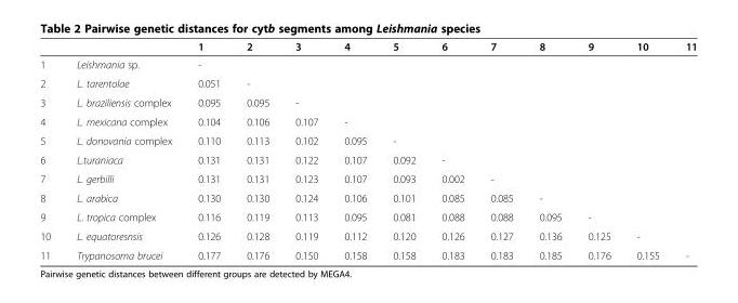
<table><thead><tr><td></td><td></td><td>1</td><td>2</td><td>3</td><td>4</td><td>5</td><td>6</td><td>7</td><td>8</td><td>9</td><td>10</td><td>11</td></tr></thead><tbody><tr><td>1</td><td>Leishmania sp.</td><td>-</td><td></td><td></td><td></td><td></td><td></td><td></td><td></td><td></td><td></td><td></td></tr><tr><td>2</td><td>L. tarentolae</td><td>0.051</td><td>-</td><td></td><td></td><td></td><td></td><td></td><td></td><td></td><td></td><td></td></tr><tr><td>3</td><td>L. braziliensis complex</td><td>0.095</td><td>0.095</td><td>-</td><td></td><td></td><td></td><td></td><td></td><td></td><td></td><td></td></tr><tr><td>4</td><td>L. mexicana complex</td><td>0.104</td><td>0.106</td><td>0.107</td><td>-</td><td></td><td></td><td></td><td></td><td></td><td></td><td></td></tr><tr><td>5</td><td>L. donovania complex</td><td>0.110</td><td>0.113</td><td>0.102</td><td>0.095</td><td>-</td><td></td><td></td><td></td><td></td><td></td><td></td></tr><tr><td>6</td><td>L.turaniaca</td><td>0.131</td><td>0.131</td><td>0.122</td><td>0.107</td><td>0.092</td><td>-</td><td></td><td></td><td></td><td></td><td></td></tr><tr><td>7</td><td>L. gerbilli</td><td>0.131</td><td>0.131</td><td>0.123</td><td>0.107</td><td>0.093</td><td>0.002</td><td>-</td><td></td><td></td><td></td><td></td></tr><tr><td>8</td><td>L. arabica</td><td>0.130</td><td>0.130</td><td>0.124</td><td>0.106</td><td>0.101</td><td>0.085</td><td>0.085</td><td>-</td><td></td><td></td><td></td></tr><tr><td>9</td><td>L. tropica complex</td><td>0.116</td><td>0.119</td><td>0.113</td><td>0.095</td><td>0.081</td><td>0.088</td><td>0.088</td><td>0.095</td><td>-</td><td></td><td></td></tr><tr><td>10</td><td>L. equatoresnsis</td><td>0.126</td><td>0.128</td><td>0.119</td><td>0.112</td><td>0.120</td><td>0.126</td><td>0.127</td><td>0.136</td><td>0.125</td><td>-</td><td></td></tr><tr><td>11</td><td>Trypanosoma brucei</td><td>0.177</td><td>0.176</td><td>0.150</td><td>0.158</td><td>0.158</td><td>0.183</td><td>0.183</td><td>0.185</td><td>0.176</td><td>0.155</td><td>-</td></tr></tbody></table>